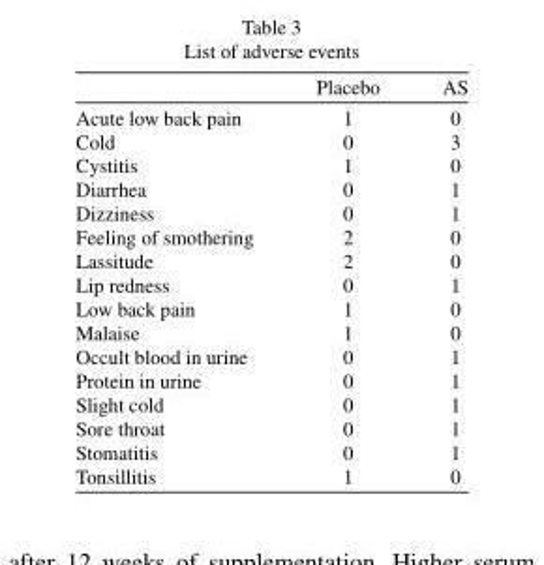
<table><thead><tr><td></td><td>Placebo</td><td>AS</td></tr></thead><tbody><tr><td>Acute low back pain</td><td>1</td><td>0</td></tr><tr><td>Cold</td><td>0</td><td>3</td></tr><tr><td>Cystitis</td><td>1</td><td>0</td></tr><tr><td>Diarrhea</td><td>0</td><td>1</td></tr><tr><td>Dizziness</td><td>0</td><td>1</td></tr><tr><td>Feeling of smothering</td><td>2</td><td>0</td></tr><tr><td>Lassitude</td><td>2</td><td>0</td></tr><tr><td>Lip redness</td><td>0</td><td>1</td></tr><tr><td>Low back pain</td><td>1</td><td>0</td></tr><tr><td>Malaise</td><td>1</td><td>0</td></tr><tr><td>Occult blood in urine</td><td>0</td><td>1</td></tr><tr><td>Protein in urine</td><td>0</td><td>1</td></tr><tr><td>Slight cold</td><td>0</td><td>1</td></tr><tr><td>Sore throat</td><td>0</td><td>1</td></tr><tr><td>Stomatitis</td><td>0</td><td>1</td></tr><tr><td>Tonsillitis</td><td>1</td><td>0</td></tr></tbody></table>